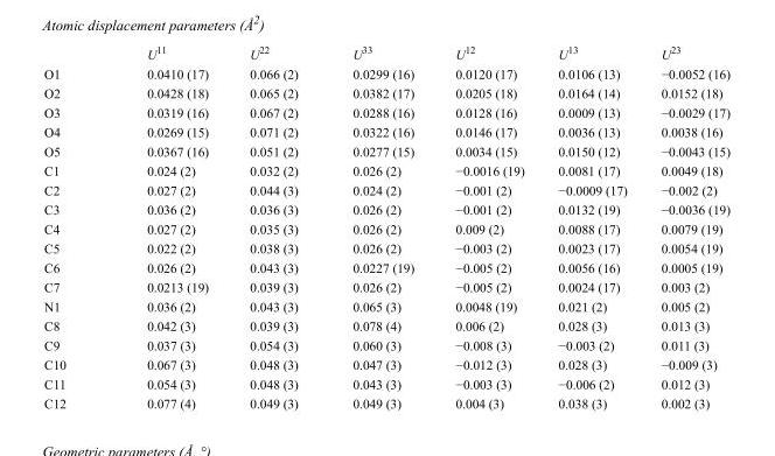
<table><thead><tr><td></td><td>U<sup>11</sup></td><td>U<sup>22</sup></td><td>U<sup>33</sup></td><td>U<sup>12</sup></td><td>U<sup>13</sup></td><td>U<sup>23</sup></td></tr></thead><tbody><tr><td>O1</td><td>0.0410 (17)</td><td>0.066 (2)</td><td>0.0299 (16)</td><td>0.0120 (17)</td><td>0.0106 (13)</td><td>−0.0052 (16)</td></tr><tr><td>O2</td><td>0.0428 (18)</td><td>0.065 (2)</td><td>0.0382 (17)</td><td>0.0205 (18)</td><td>0.0164 (14)</td><td>0.0152 (18)</td></tr><tr><td>O3</td><td>0.0319 (16)</td><td>0.067 (2)</td><td>0.0288 (16)</td><td>0.0128 (16)</td><td>0.0009 (13)</td><td>−0.0029 (17)</td></tr><tr><td>O4</td><td>0.0269 (15)</td><td>0.071 (2)</td><td>0.0322 (16)</td><td>0.0146 (17)</td><td>0.0036 (13)</td><td>0.0038 (16)</td></tr><tr><td>O5</td><td>0.0367 (16)</td><td>0.051 (2)</td><td>0.0277 (15)</td><td>0.0034 (15)</td><td>0.0150 (12)</td><td>−0.0043 (15)</td></tr><tr><td>C1</td><td>0.024 (2)</td><td>0.032 (2)</td><td>0.026 (2)</td><td>−0.0016 (19)</td><td>0.0081 (17)</td><td>0.0049 (18)</td></tr><tr><td>C2</td><td>0.027 (2)</td><td>0.044 (3)</td><td>0.024 (2)</td><td>−0.001 (2)</td><td>−0.0009 (17)</td><td>−0.002 (2)</td></tr><tr><td>C3</td><td>0.036 (2)</td><td>0.036 (3)</td><td>0.026 (2)</td><td>−0.001 (2)</td><td>0.0132 (19)</td><td>−0.0036 (19)</td></tr><tr><td>C4</td><td>0.027 (2)</td><td>0.035 (3)</td><td>0.026 (2)</td><td>0.009 (2)</td><td>0.0088 (17)</td><td>0.0079 (19)</td></tr><tr><td>C5</td><td>0.022 (2)</td><td>0.038 (3)</td><td>0.026 (2)</td><td>−0.003 (2)</td><td>0.0023 (17)</td><td>0.0054 (19)</td></tr><tr><td>C6</td><td>0.026 (2)</td><td>0.043 (3)</td><td>0.0227 (19)</td><td>−0.005 (2)</td><td>0.0056 (16)</td><td>0.0005 (19)</td></tr><tr><td>C7</td><td>0.0213 (19)</td><td>0.039 (3)</td><td>0.026 (2)</td><td>−0.005 (2)</td><td>0.0024 (17)</td><td>0.003 (2)</td></tr><tr><td>N1</td><td>0.036 (2)</td><td>0.043 (3)</td><td>0.065 (3)</td><td>0.0048 (19)</td><td>0.021 (2)</td><td>0.005 (2)</td></tr><tr><td>C8</td><td>0.042 (3)</td><td>0.039 (3)</td><td>0.078 (4)</td><td>0.006 (2)</td><td>0.028 (3)</td><td>0.013 (3)</td></tr><tr><td>C9</td><td>0.037 (3)</td><td>0.054 (3)</td><td>0.060 (3)</td><td>−0.008 (3)</td><td>−0.003 (2)</td><td>0.011 (3)</td></tr><tr><td>C10</td><td>0.067 (3)</td><td>0.048 (3)</td><td>0.047 (3)</td><td>−0.012 (3)</td><td>0.028 (3)</td><td>−0.009 (3)</td></tr><tr><td>C11</td><td>0.054 (3)</td><td>0.048 (3)</td><td>0.043 (3)</td><td>−0.003 (3)</td><td>−0.006 (2)</td><td>0.012 (3)</td></tr><tr><td>C12</td><td>0.077 (4)</td><td>0.049 (3)</td><td>0.049 (3)</td><td>0.004 (3)</td><td>0.038 (3)</td><td>0.002 (3)</td></tr></tbody></table>